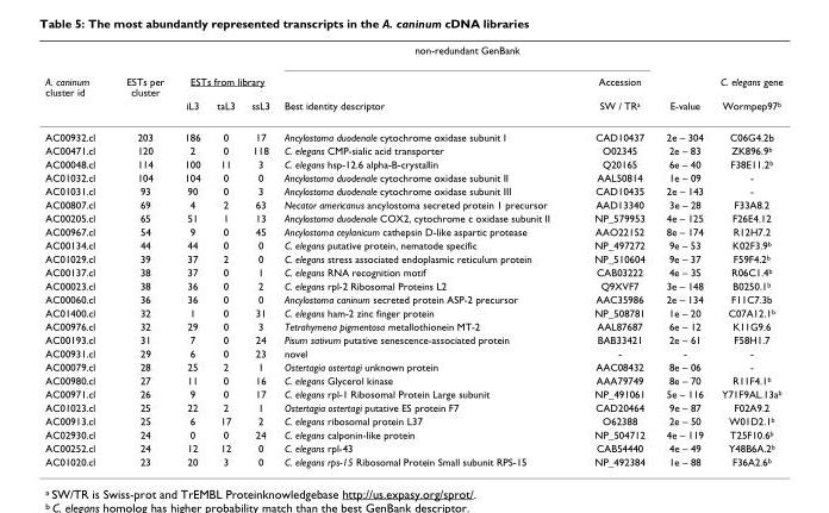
<table><thead><tr><td rowspan="3">A. caninum cluster id</td><td rowspan="3">ESTs per cluster</td><td></td><td></td><td></td><td colspan="2">non-redundant GenBank</td><td rowspan="3">E-value</td><td rowspan="3">C. elegans gene Wormpep97<sup>b</sup></td></tr><tr><td colspan="3">ESTs from library</td><td rowspan="2">Best identity descriptor</td><td rowspan="2">Accession SW / TR<sup>a</sup></td></tr><tr><td>iL3</td><td>taL3</td><td>ssL3</td></tr></thead><tbody><tr><td>AC00932.cl</td><td>203</td><td>186</td><td>0</td><td>17</td><td>Ancylostoma duodenale cytochrome oxidase subunit I</td><td>CAD10437</td><td>2e – 304</td><td>C06G4.2b</td></tr><tr><td>AC00471.cl</td><td>120</td><td>2</td><td>0</td><td>118</td><td>C. elegans CMP-sialic acid transporter</td><td>O02345</td><td>2e – 83</td><td>ZK896.9<sup>b</sup></td></tr><tr><td>AC00048.cl</td><td>114</td><td>100</td><td>11</td><td>3</td><td>C. elegans hsp-12.6 alpha-B-crystallin</td><td>Q20165</td><td>6e – 40</td><td>F38E11.2<sup>b</sup></td></tr><tr><td>AC01032.cl</td><td>104</td><td>104</td><td>0</td><td>0</td><td>Ancylostoma duodenale cytochrome oxidase subunit II</td><td>AAL50814</td><td>1e – 09</td><td>-</td></tr><tr><td>AC01031.cl</td><td>93</td><td>90</td><td>0</td><td>3</td><td>Ancylostoma duodenale cytochrome oxidase subunit III</td><td>CAD10435</td><td>2e – 143</td><td>-</td></tr><tr><td>AC00807.cl</td><td>69</td><td>4</td><td>2</td><td>63</td><td>Necator americanus ancylostoma secreted protein 1 precursor</td><td>AAD13340</td><td>3e – 28</td><td>F33A8.2</td></tr><tr><td>AC00205.cl</td><td>65</td><td>51</td><td>1</td><td>13</td><td>Ancylostoma duodenale COX2, cytochrome c oxidase subunit II</td><td>NP_579953</td><td>4e – 125</td><td>F26E4.12</td></tr><tr><td>AC00967.cl</td><td>54</td><td>9</td><td>0</td><td>45</td><td>Ancylostoma ceylanicum cathepsin D-like aspartic protease</td><td>AAO22152</td><td>8e – 174</td><td>R12H7.2</td></tr><tr><td>AC00134.cl</td><td>44</td><td>44</td><td>0</td><td>0</td><td>C. elegans putative protein, nematode specific</td><td>NP_497272</td><td>9e – 53</td><td>K02F3.9<sup>b</sup></td></tr><tr><td>AC01029.cl</td><td>39</td><td>37</td><td>2</td><td>0</td><td>C. elegans stress associated endoplasmic reticulum protein</td><td>NP_510604</td><td>9e – 37</td><td>F59F4.2<sup>b</sup></td></tr><tr><td>AC00137.cl</td><td>38</td><td>37</td><td>0</td><td>1</td><td>C. elegans RNA recognition motif</td><td>CAB03222</td><td>4e – 35</td><td>R06C1.4<sup>b</sup></td></tr><tr><td>AC00023.cl</td><td>38</td><td>36</td><td>0</td><td>2</td><td>C. elegans rpl-2 Ribosomal Proteins L2</td><td>Q9XVF7</td><td>3e – 148</td><td>B0250.1<sup>b</sup></td></tr><tr><td>AC00060.cl</td><td>36</td><td>36</td><td>0</td><td>0</td><td>Ancylostoma caninum secreted protein ASP-2 precursor</td><td>AAC35986</td><td>2e – 134</td><td>F11C7.3b</td></tr><tr><td>AC01400.cl</td><td>32</td><td>1</td><td>0</td><td>31</td><td>C. elegans ham-2 zinc finger protein</td><td>NP_508781</td><td>1e – 20</td><td>C07A12.1<sup>b</sup></td></tr><tr><td>AC00976.cl</td><td>32</td><td>29</td><td>0</td><td>3</td><td>Tetrahymena pigmentosa metallothionein MT-2</td><td>AAL87687</td><td>6e – 12</td><td>K11G9.6</td></tr><tr><td>AC00193.cl</td><td>31</td><td>7</td><td>0</td><td>24</td><td>Pisum sativum putative senescence-associated protein</td><td>BAB33421</td><td>2e – 61</td><td>F58H1.7</td></tr><tr><td>AC00931.cl</td><td>29</td><td>6</td><td>0</td><td>23</td><td>novel</td><td>-</td><td>-</td><td>-</td></tr><tr><td>AC00079.cl</td><td>28</td><td>25</td><td>2</td><td>1</td><td>Ostertagia ostertagi unknown protein</td><td>AAC08432</td><td>8e – 06</td><td>-</td></tr><tr><td>AC00980.cl</td><td>27</td><td>11</td><td>0</td><td>16</td><td>C. elegans Glycerol kinase</td><td>AAA79749</td><td>8e – 70</td><td>R11F4.1<sup>b</sup></td></tr><tr><td>AC00971.cl</td><td>26</td><td>9</td><td>0</td><td>17</td><td>C. elegans rpl-1 Ribosomal Protein Large subunit</td><td>NP_491061</td><td>5e – 116</td><td>Y71F9AL.13a<sup>b</sup></td></tr><tr><td>AC01023.cl</td><td>25</td><td>22</td><td>2</td><td>1</td><td>Ostertagia ostertagi putative ES protein F7</td><td>CAD20464</td><td>9e – 87</td><td>F02A9.2</td></tr><tr><td>AC00913.cl</td><td>25</td><td>6</td><td>17</td><td>2</td><td>C. elegans ribosomal protein L37</td><td>O62388</td><td>2e – 50</td><td>W01D2.1<sup>b</sup></td></tr><tr><td>AC02930.cl</td><td>24</td><td>0</td><td>0</td><td>24</td><td>C. elegans calponin-like protein</td><td>NP_504712</td><td>4e – 119</td><td>T25F10.6<sup>b</sup></td></tr><tr><td>AC00252.cl</td><td>24</td><td>12</td><td>12</td><td>0</td><td>C. elegans rpl-43</td><td>CAB54440</td><td>4e – 49</td><td>Y48B6A.2<sup>b</sup></td></tr><tr><td>AC01020.cl</td><td>23</td><td>20</td><td>3</td><td>0</td><td>C. elegans rps-15 Ribosomal Protein Small subunit RPS-15</td><td>NP_492384</td><td>1e – 88</td><td>F36A2.6<sup>b</sup></td></tr></tbody></table>